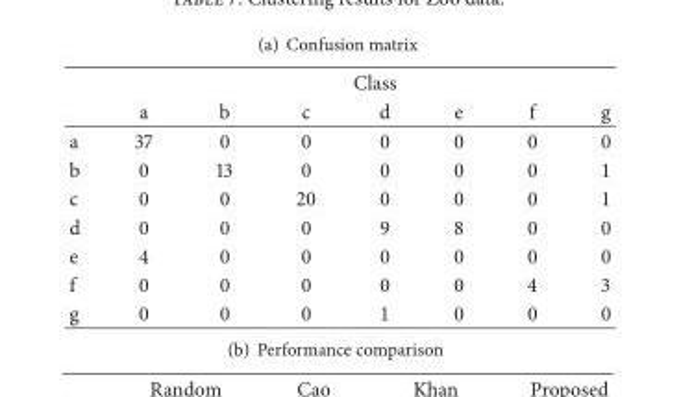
<table><thead><tr><td rowspan="2"></td><td colspan="7">Class</td></tr><tr><td>a</td><td>b</td><td>c</td><td>d</td><td>e</td><td>f</td><td>g</td></tr></thead><tbody><tr><td>a</td><td>37</td><td>0</td><td>0</td><td>0</td><td>0</td><td>0</td><td>0</td></tr><tr><td>b</td><td>0</td><td>13</td><td>0</td><td>0</td><td>0</td><td>0</td><td>1</td></tr><tr><td>c</td><td>0</td><td>0</td><td>20</td><td>0</td><td>0</td><td>0</td><td>1</td></tr><tr><td>d</td><td>0</td><td>0</td><td>0</td><td>9</td><td>8</td><td>0</td><td>0</td></tr><tr><td>e</td><td>4</td><td>0</td><td>0</td><td>0</td><td>0</td><td>0</td><td>0</td></tr><tr><td>f</td><td>0</td><td>0</td><td>0</td><td>0</td><td>0</td><td>4</td><td>3</td></tr><tr><td>g</td><td>0</td><td>0</td><td>0</td><td>1</td><td>0</td><td>0</td><td>0</td></tr></tbody></table>